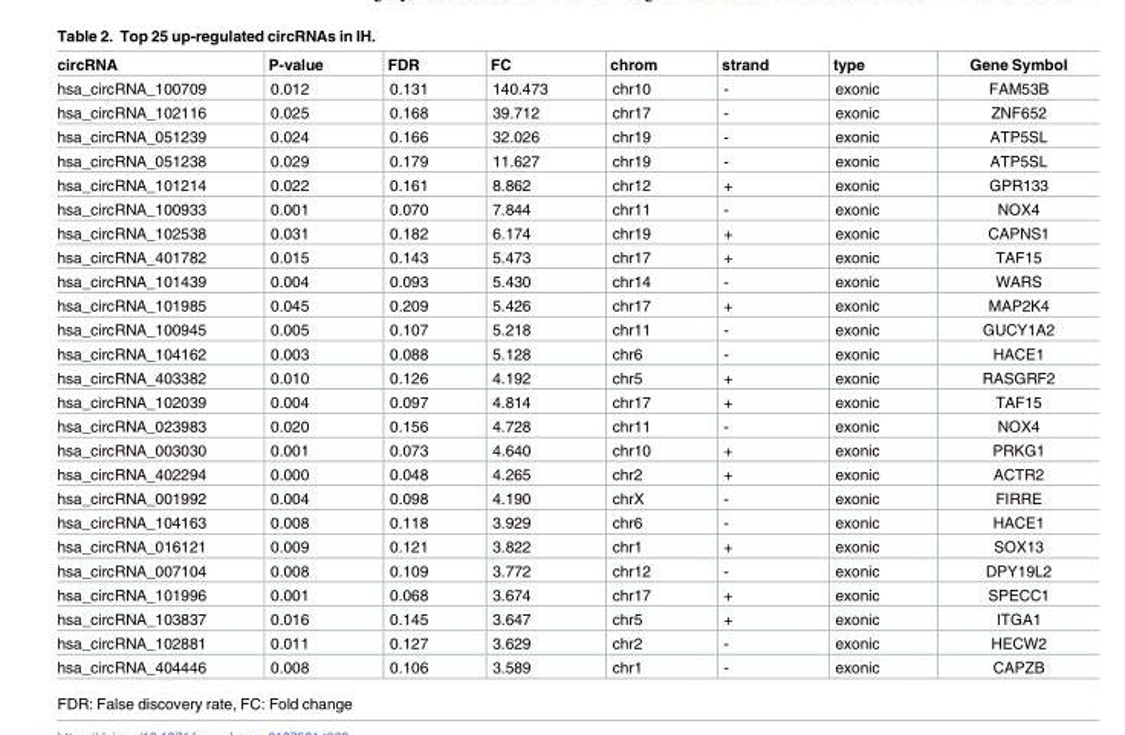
<table><thead><tr><td>circRNA</td><td>P-value</td><td>FDR</td><td>FC</td><td>chrom</td><td>strand</td><td>type</td><td>Gene Symbol</td></tr></thead><tbody><tr><td>hsa_circRNA_100709</td><td>0.012</td><td>0.131</td><td>140.473</td><td>chr10</td><td>-</td><td>exonic</td><td>FAM53B</td></tr><tr><td>hsa_circRNA_102116</td><td>0.025</td><td>0.168</td><td>39.712</td><td>chr17</td><td>-</td><td>exonic</td><td>ZNF652</td></tr><tr><td>hsa_circRNA_051239</td><td>0.024</td><td>0.166</td><td>32.026</td><td>chr19</td><td>-</td><td>exonic</td><td>ATP5SL</td></tr><tr><td>hsa_circRNA_051238</td><td>0.029</td><td>0.179</td><td>11.627</td><td>chr19</td><td>-</td><td>exonic</td><td>ATP5SL</td></tr><tr><td>hsa_circRNA_101214</td><td>0.022</td><td>0.161</td><td>8.862</td><td>chr12</td><td>+</td><td>exonic</td><td>GPR133</td></tr><tr><td>hsa_circRNA_100933</td><td>0.001</td><td>0.070</td><td>7.844</td><td>chr11</td><td>-</td><td>exonic</td><td>NOX4</td></tr><tr><td>hsa_circRNA_102538</td><td>0.031</td><td>0.182</td><td>6.174</td><td>chr19</td><td>+</td><td>exonic</td><td>CAPNS1</td></tr><tr><td>hsa_circRNA_401782</td><td>0.015</td><td>0.143</td><td>5.473</td><td>chr17</td><td>+</td><td>exonic</td><td>TAF15</td></tr><tr><td>hsa_circRNA_101439</td><td>0.004</td><td>0.093</td><td>5.430</td><td>chr14</td><td>-</td><td>exonic</td><td>WARS</td></tr><tr><td>hsa_circRNA_101985</td><td>0.045</td><td>0.209</td><td>5.426</td><td>chr17</td><td>+</td><td>exonic</td><td>MAP2K4</td></tr><tr><td>hsa_circRNA_100945</td><td>0.005</td><td>0.107</td><td>5.218</td><td>chr11</td><td>-</td><td>exonic</td><td>GUCY1A2</td></tr><tr><td>hsa_circRNA_104162</td><td>0.003</td><td>0.088</td><td>5.128</td><td>chr6</td><td>-</td><td>exonic</td><td>HACE1</td></tr><tr><td>hsa_circRNA_403382</td><td>0.010</td><td>0.126</td><td>4.192</td><td>chr5</td><td>+</td><td>exonic</td><td>RASGRF2</td></tr><tr><td>hsa_circRNA_102039</td><td>0.004</td><td>0.097</td><td>4.814</td><td>chr17</td><td>+</td><td>exonic</td><td>TAF15</td></tr><tr><td>hsa_circRNA_023983</td><td>0.020</td><td>0.156</td><td>4.728</td><td>chr11</td><td>-</td><td>exonic</td><td>NOX4</td></tr><tr><td>hsa_circRNA_003030</td><td>0.001</td><td>0.073</td><td>4.640</td><td>chr10</td><td>+</td><td>exonic</td><td>PRKG1</td></tr><tr><td>hsa_circRNA_402294</td><td>0.000</td><td>0.048</td><td>4.265</td><td>chr2</td><td>+</td><td>exonic</td><td>ACTR2</td></tr><tr><td>hsa_circRNA_001992</td><td>0.004</td><td>0.098</td><td>4.190</td><td>chrX</td><td>-</td><td>exonic</td><td>FIRRE</td></tr><tr><td>hsa_circRNA_104163</td><td>0.008</td><td>0.118</td><td>3.929</td><td>chr6</td><td>-</td><td>exonic</td><td>HACE1</td></tr><tr><td>hsa_circRNA_016121</td><td>0.009</td><td>0.121</td><td>3.822</td><td>chr1</td><td>+</td><td>exonic</td><td>SOX13</td></tr><tr><td>hsa_circRNA_007104</td><td>0.008</td><td>0.109</td><td>3.772</td><td>chr12</td><td>-</td><td>exonic</td><td>DPY19L2</td></tr><tr><td>hsa_circRNA_101996</td><td>0.001</td><td>0.068</td><td>3.674</td><td>chr17</td><td>+</td><td>exonic</td><td>SPECC1</td></tr><tr><td>hsa_circRNA_103837</td><td>0.016</td><td>0.145</td><td>3.647</td><td>chr5</td><td>+</td><td>exonic</td><td>ITGA1</td></tr><tr><td>hsa_circRNA_102881</td><td>0.011</td><td>0.127</td><td>3.629</td><td>chr2</td><td>-</td><td>exonic</td><td>HECW2</td></tr><tr><td>hsa_circRNA_404446</td><td>0.008</td><td>0.106</td><td>3.589</td><td>chr1</td><td>-</td><td>exonic</td><td>CAPZB</td></tr></tbody></table>